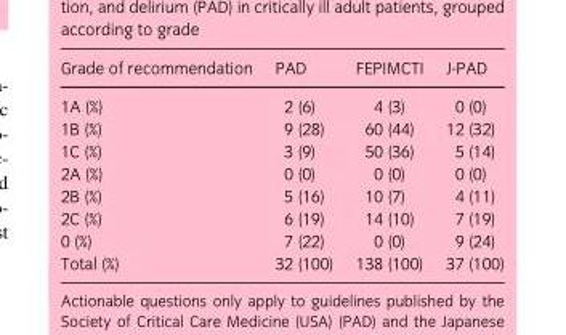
<table><thead><tr><td>Grade of recommendation</td><td>PAD</td><td>FEPIMCTI</td><td>J-PAD</td></tr></thead><tbody><tr><td>1A (%)</td><td>2 (6)</td><td>4 (3)</td><td>0 (0)</td></tr><tr><td>1B (%)</td><td>9 (28)</td><td>60 (44)</td><td>12 (32)</td></tr><tr><td>1C (%)</td><td>3 (9)</td><td>50 (36)</td><td>5 (14)</td></tr><tr><td>2A (%)</td><td>0 (0)</td><td>0 (0)</td><td>0 (0)</td></tr><tr><td>2B (%)</td><td>5 (16)</td><td>10 (7)</td><td>4 (11)</td></tr><tr><td>2C (%)</td><td>6 (19)</td><td>14 (10)</td><td>7 (19)</td></tr><tr><td>0 (%)</td><td>7 (22)</td><td>0 (0)</td><td>9 (24)</td></tr><tr><td>Total (%)</td><td>32 (100)</td><td>138 (100)</td><td>37 (100)</td></tr></tbody></table>